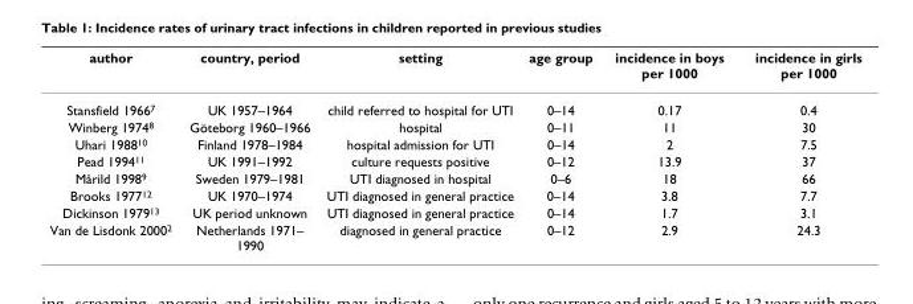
<table><thead><tr><td>author</td><td>country, period</td><td>setting</td><td>age group</td><td>incidence in boys per 1000</td><td>incidence in girls per 1000</td></tr></thead><tbody><tr><td>Stansfield 1966<sup>7</sup></td><td>UK 1957–1964</td><td>child referred to hospital for UTI</td><td>0–14</td><td>0.17</td><td>0.4</td></tr><tr><td>Winberg 1974<sup>8</sup></td><td>Göteborg 1960–1966</td><td>hospital</td><td>0–11</td><td>11</td><td>30</td></tr><tr><td>Uhari 1988<sup>10</sup></td><td>Finland 1978–1984</td><td>hospital admission for UTI</td><td>0–14</td><td>2</td><td>7.5</td></tr><tr><td>Pead 1994<sup>11</sup></td><td>UK 1991–1992</td><td>culture requests positive</td><td>0–12</td><td>13.9</td><td>37</td></tr><tr><td>Mårild 1998<sup>9</sup></td><td>Sweden 1979–1981</td><td>UTI diagnosed in hospital</td><td>0–6</td><td>18</td><td>66</td></tr><tr><td>Brooks 1977<sup>12</sup></td><td>UK 1970–1974</td><td>UTI diagnosed in general practice</td><td>0–14</td><td>3.8</td><td>7.7</td></tr><tr><td>Dickinson 1979<sup>13</sup></td><td>UK period unknown</td><td>UTI diagnosed in general practice</td><td>0–14</td><td>1.7</td><td>3.1</td></tr><tr><td>Van de Lisdonk 2000<sup>2</sup></td><td>Netherlands 1971– 1990</td><td>diagnosed in general practice</td><td>0–12</td><td>2.9</td><td>24.3</td></tr></tbody></table>